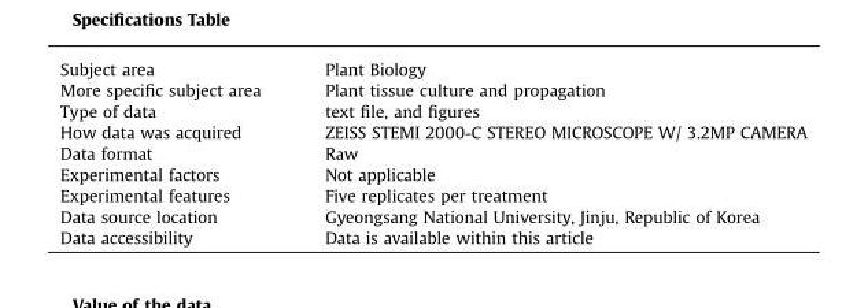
<table><thead><tr><td>Subject area</td><td>Plant Biology</td></tr></thead><tbody><tr><td>More specific subject area</td><td>Plant tissue culture and propagation</td></tr><tr><td>Type of data</td><td>text file, and figures</td></tr><tr><td>How data was acquired</td><td>ZEISS STEMI 2000-C STEREO MICROSCOPE W/ 3.2MP CAMERA</td></tr><tr><td>Data format</td><td>Raw</td></tr><tr><td>Experimental factors</td><td>Not applicable</td></tr><tr><td>Experimental features</td><td>Five replicates per treatment</td></tr><tr><td>Data source location</td><td>Gyeongsang National University, Jinju, Republic of Korea</td></tr><tr><td>Data accessibility</td><td>Data is available within this article</td></tr></tbody></table>